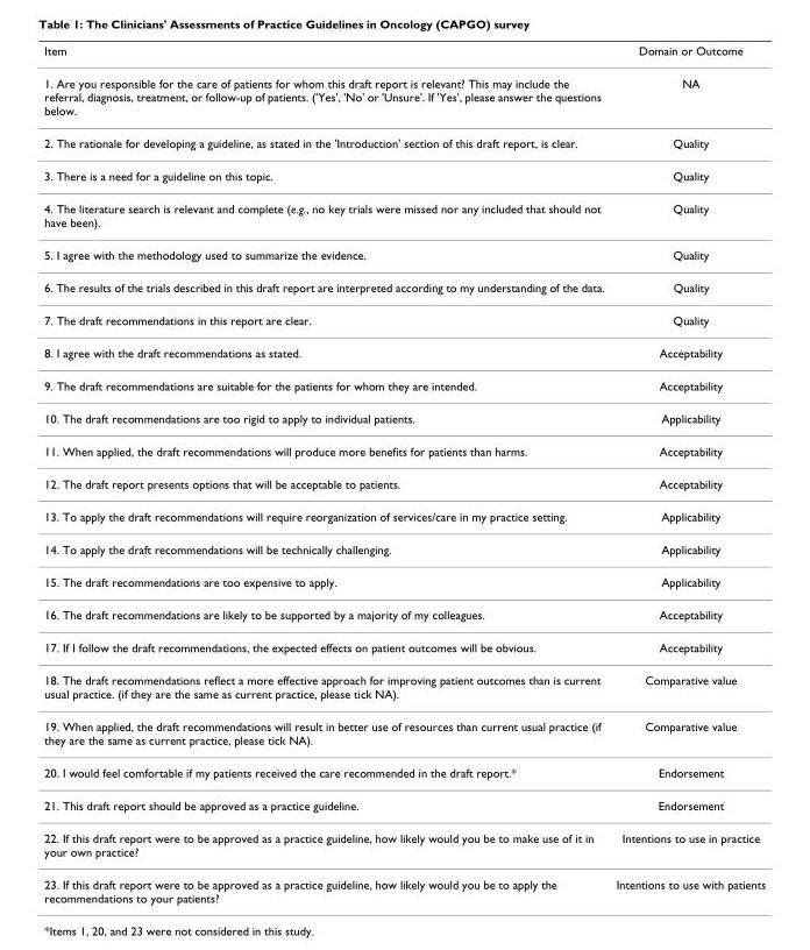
<table><thead><tr><td>Item</td><td>Domain or Outcome</td></tr></thead><tbody><tr><td>1. Are you responsible for the care of patients for whom this draft report is relevant? This may include the referral, diagnosis, treatment, or follow-up of patients. (&#x27;Yes&#x27;, &#x27;No&#x27; or &#x27;Unsure&#x27;. If &#x27;Yes&#x27;, please answer the questions below.</td><td>NA</td></tr><tr><td>2. The rationale for developing a guideline, as stated in the &#x27;Introduction&#x27; section of this draft report, is clear.</td><td>Quality</td></tr><tr><td>3. There is a need for a guideline on this topic.</td><td>Quality</td></tr><tr><td>4. The literature search is relevant and complete (e.g., no key trials were missed nor any included that should not have been).</td><td>Quality</td></tr><tr><td>5. I agree with the methodology used to summarize the evidence.</td><td>Quality</td></tr><tr><td>6. The results of the trials described in this draft report are interpreted according to my understanding of the data.</td><td>Quality</td></tr><tr><td>7. The draft recommendations in this report are clear.</td><td>Quality</td></tr><tr><td>8. I agree with the draft recommendations as stated.</td><td>Acceptability</td></tr><tr><td>9. The draft recommendations are suitable for the patients for whom they are intended.</td><td>Acceptability</td></tr><tr><td>10. The draft recommendations are too rigid to apply to individual patients.</td><td>Applicability</td></tr><tr><td>11. When applied, the draft recommendations will produce more benefits for patients than harms.</td><td>Acceptability</td></tr><tr><td>12. The draft report presents options that will be acceptable to patients.</td><td>Acceptability</td></tr><tr><td>13. To apply the draft recommendations will require reorganization of services/care in my practice setting.</td><td>Applicability</td></tr><tr><td>14. To apply the draft recommendations will be technically challenging.</td><td>Applicability</td></tr><tr><td>15. The draft recommendations are too expensive to apply.</td><td>Applicability</td></tr><tr><td>16. The draft recommendations are likely to be supported by a majority of my colleagues.</td><td>Acceptability</td></tr><tr><td>17. If I follow the draft recommendations, the expected effects on patient outcomes will be obvious.</td><td>Acceptability</td></tr><tr><td>18. The draft recommendations reflect a more effective approach for improving patient outcomes than is current usual practice. (if they are the same as current practice, please tick NA).</td><td>Comparative value</td></tr><tr><td>19. When applied, the draft recommendations will result in better use of resources than current usual practice (if they are the same as current practice, please tick NA).</td><td>Comparative value</td></tr><tr><td>20. I would feel comfortable if my patients received the care recommended in the draft report.*</td><td>Endorsement</td></tr><tr><td>21. This draft report should be approved as a practice guideline.</td><td>Endorsement</td></tr><tr><td>22. If this draft report were to be approved as a practice guideline, how likely would you be to make use of it in your own practice?</td><td>Intentions to use in practice</td></tr><tr><td>23. If this draft report were to be approved as a practice guideline, how likely would you be to apply the recommendations to your patients?</td><td>Intentions to use with patients</td></tr></tbody></table>